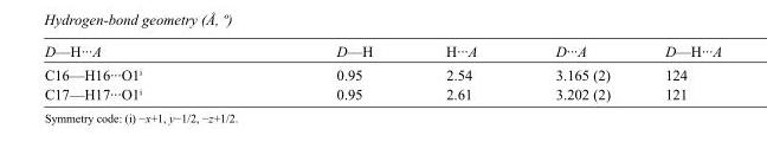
<table><tbody><tr><td>D—H···A</td><td>D—H</td><td>H···A</td><td>D···A</td><td>D—H···A</td></tr><tr><td>C16—H16···O1<sup>i</sup></td><td>0.95</td><td>2.54</td><td>3.165 (2)</td><td>124</td></tr><tr><td>C17—H17···O1<sup>i</sup></td><td>0.95</td><td>2.61</td><td>3.202 (2)</td><td>121</td></tr></tbody></table>